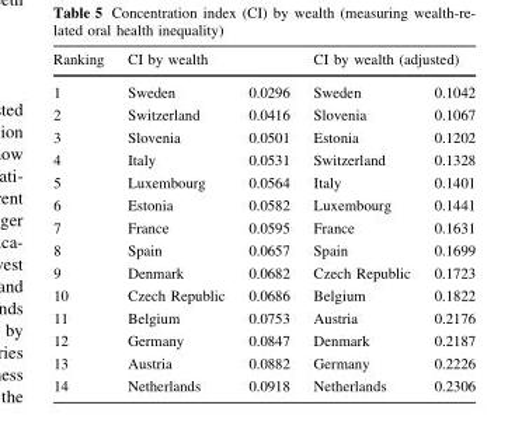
<table><thead><tr><td rowspan="2">Ranking 1</td><td colspan="2">CI by wealth</td><td colspan="2">CI by wealth (adjusted)</td></tr><tr><td>Sweden</td><td>0.0296</td><td>Sweden</td><td>0.1042</td></tr></thead><tbody><tr><td>2</td><td>Switzerland</td><td>0.0416</td><td>Slovenia</td><td>0.1067</td></tr><tr><td>3</td><td>Slovenia</td><td>0.0501</td><td>Estonia</td><td>0.1202</td></tr><tr><td>4</td><td>Italy</td><td>0.0531</td><td>Switzerland</td><td>0.1328</td></tr><tr><td>5</td><td>Luxembourg</td><td>0.0564</td><td>Italy</td><td>0.1401</td></tr><tr><td>6</td><td>Estonia</td><td>0.0582</td><td>Luxembourg</td><td>0.1441</td></tr><tr><td>7</td><td>France</td><td>0.0595</td><td>France</td><td>0.1631</td></tr><tr><td>8</td><td>Spain</td><td>0.0657</td><td>Spain</td><td>0.1699</td></tr><tr><td>9</td><td>Denmark</td><td>0.0682</td><td>Czech Republic</td><td>0.1723</td></tr><tr><td>10</td><td>Czech Republic</td><td>0.0686</td><td>Belgium</td><td>0.1822</td></tr><tr><td>11</td><td>Belgium</td><td>0.0753</td><td>Austria</td><td>0.2176</td></tr><tr><td>12</td><td>Germany</td><td>0.0847</td><td>Denmark</td><td>0.2187</td></tr><tr><td>13</td><td>Austria</td><td>0.0882</td><td>Germany</td><td>0.2226</td></tr><tr><td>14</td><td>Netherlands</td><td>0.0918</td><td>Netherlands</td><td>0.2306</td></tr></tbody></table>